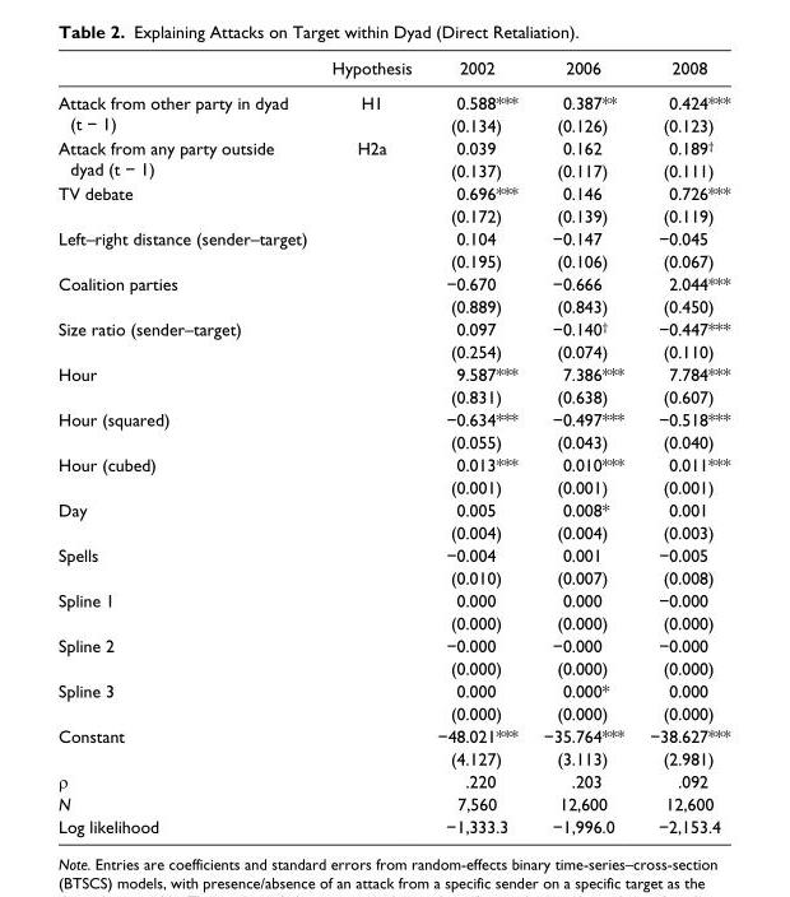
<table><thead><tr><td></td><td>Hypothesis</td><td>2002</td><td>2006</td><td>2008</td></tr></thead><tbody><tr><td rowspan="2">Attack from other party in dyad (t − 1)</td><td>H1</td><td>0.588***</td><td>0.387**</td><td>0.424***</td></tr><tr><td></td><td>(0.134)</td><td>(0.126)</td><td>(0.123)</td></tr><tr><td rowspan="2">Attack from any party outside dyad (t − 1)</td><td>H2a</td><td>0.039</td><td>0.162</td><td>0.189<sup>†</sup></td></tr><tr><td></td><td>(0.137)</td><td>(0.117)</td><td>(0.111)</td></tr><tr><td rowspan="2">TV debate</td><td></td><td>0.696***</td><td>0.146</td><td>0.726***</td></tr><tr><td></td><td>(0.172)</td><td>(0.139)</td><td>(0.119)</td></tr><tr><td rowspan="2">Left–right distance (sender–target)</td><td></td><td>0.104</td><td>−0.147</td><td>−0.045</td></tr><tr><td></td><td>(0.195)</td><td>(0.106)</td><td>(0.067)</td></tr><tr><td rowspan="2">Coalition parties</td><td></td><td>−0.670</td><td>−0.666</td><td>2.044***</td></tr><tr><td></td><td>(0.889)</td><td>(0.843)</td><td>(0.450)</td></tr><tr><td rowspan="2">Size ratio (sender–target)</td><td></td><td>0.097</td><td>−0.140<sup>†</sup></td><td>−0.447***</td></tr><tr><td></td><td>(0.254)</td><td>(0.074)</td><td>(0.110)</td></tr><tr><td rowspan="2">Hour</td><td></td><td>9.587***</td><td>7.386***</td><td>7.784***</td></tr><tr><td></td><td>(0.831)</td><td>(0.638)</td><td>(0.607)</td></tr><tr><td rowspan="2">Hour (squared)</td><td></td><td>−0.634***</td><td>−0.497***</td><td>−0.518***</td></tr><tr><td></td><td>(0.055)</td><td>(0.043)</td><td>(0.040)</td></tr><tr><td rowspan="2">Hour (cubed)</td><td></td><td>0.013***</td><td>0.010***</td><td>0.011***</td></tr><tr><td></td><td>(0.001)</td><td>(0.001)</td><td>(0.001)</td></tr><tr><td rowspan="2">Day</td><td></td><td>0.005</td><td>0.008*</td><td>0.001</td></tr><tr><td></td><td>(0.004)</td><td>(0.004)</td><td>(0.003)</td></tr><tr><td rowspan="2">Spells</td><td></td><td>−0.004</td><td>0.001</td><td>−0.005</td></tr><tr><td></td><td>(0.010)</td><td>(0.007)</td><td>(0.008)</td></tr><tr><td rowspan="2">Spline 1</td><td></td><td>0.000</td><td>0.000</td><td>−0.000</td></tr><tr><td></td><td>(0.000)</td><td>(0.000)</td><td>(0.000)</td></tr><tr><td rowspan="2">Spline 2</td><td></td><td>−0.000</td><td>−0.000</td><td>−0.000</td></tr><tr><td></td><td>(0.000)</td><td>(0.000)</td><td>(0.000)</td></tr><tr><td rowspan="2">Spline 3</td><td></td><td>0.000</td><td>0.000*</td><td>0.000</td></tr><tr><td></td><td>(0.000)</td><td>(0.000)</td><td>(0.000)</td></tr><tr><td rowspan="2">Constant</td><td></td><td>−48.021***</td><td>−35.764***</td><td>−38.627***</td></tr><tr><td></td><td>(4.127)</td><td>(3.113)</td><td>(2.981)</td></tr><tr><td>ρ</td><td></td><td>.220</td><td>.203</td><td>.092</td></tr><tr><td>N</td><td></td><td>7,560</td><td>12,600</td><td>12,600</td></tr><tr><td>Log likelihood</td><td></td><td>−1,333.3</td><td>−1,996.0</td><td>−2,153.4</td></tr></tbody></table>